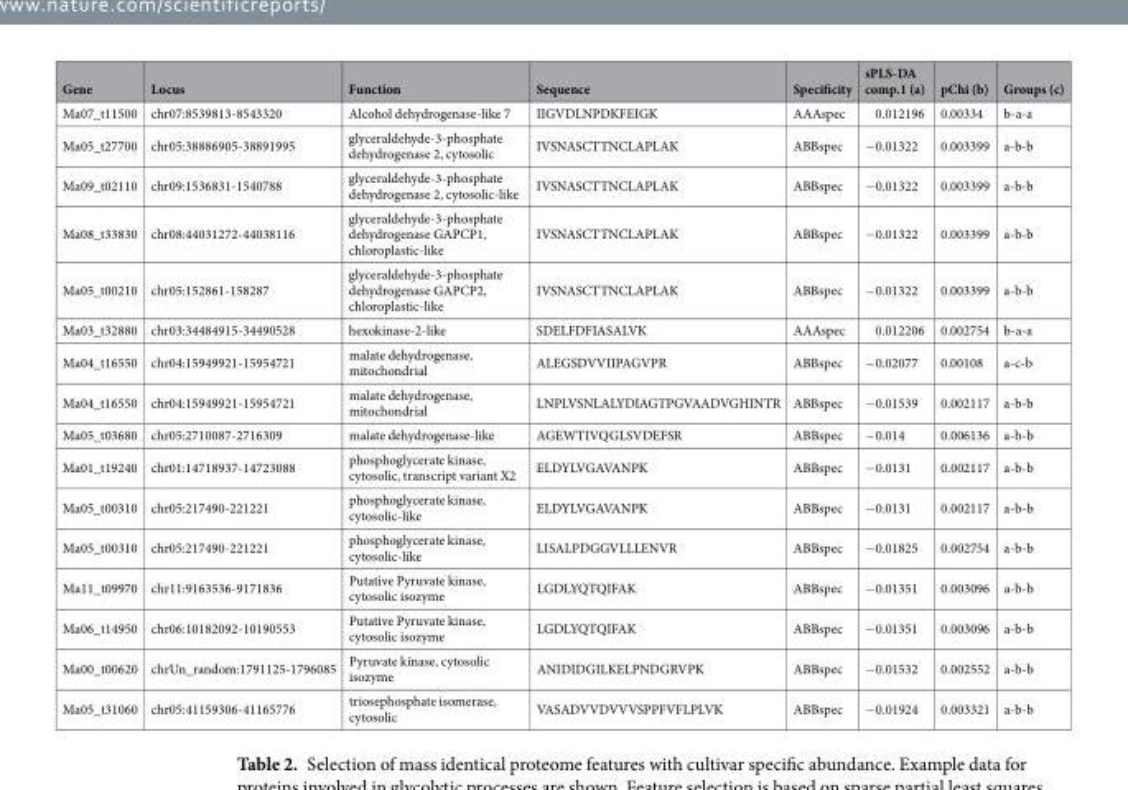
<table><thead><tr><td>Gene</td><td>Locus</td><td>Function</td><td>Sequence</td><td>Specificity</td><td>sPLS-DA comp.1 (a)</td><td>pChi (b)</td><td>Groups (c)</td></tr></thead><tbody><tr><td>Ma07_t11500</td><td>chr07:8539813-8543320</td><td>Alcohol dehydrogenase-like 7</td><td>IIGVDLNPDKFEIGK</td><td>AAAspec</td><td>0.012196</td><td>0.00334</td><td>b-a-a</td></tr><tr><td>Ma05_t27700</td><td>chr05:38886905-38891995</td><td>glyceraldehyde-3-phosphate dehydrogenase 2, cytosolic</td><td>IVSNASCTTNCLAPLAK</td><td>ABBspec</td><td>−0.01322</td><td>0.003399</td><td>a-b-b</td></tr><tr><td>Ma09_t02110</td><td>chr09:1536831-1540788</td><td>glyceraldehyde-3-phosphate dehydrogenase 2, cytosolic-like</td><td>IVSNASCTTNCLAPLAK</td><td>ABBspec</td><td>−0.01322</td><td>0.003399</td><td>a-b-b</td></tr><tr><td>Ma08_t33830</td><td>chr08:44031272-44038116</td><td>glyceraldehyde-3-phosphate dehydrogenase GAPCP1, chloroplastic-like</td><td>IVSNASCTTNCLAPLAK</td><td>ABBspec</td><td>−0.01322</td><td>0.003399</td><td>a-b-b</td></tr><tr><td>Ma05_t00210</td><td>chr05:152861-158287</td><td>glyceraldehyde-3-phosphate dehydrogenase GAPCP2, chloroplastic-like</td><td>IVSNASCTTNCLAPLAK</td><td>ABBspec</td><td>−0.01322</td><td>0.003399</td><td>a-b-b</td></tr><tr><td>Ma03_t32880</td><td>chr03:34484915-34490528</td><td>hexokinase-2-like</td><td>SDELFDFIASALVK</td><td>AAAspec</td><td>0.012206</td><td>0.002754</td><td>b-a-a</td></tr><tr><td>Ma04_t16550</td><td>chr04:15949921-15954721</td><td>malate dehydrogenase, mitochondrial</td><td>ALEGSDVVIIPAGVPR</td><td>ABBspec</td><td>−0.02077</td><td>0.00108</td><td>a-c-b</td></tr><tr><td>Ma04_t16550</td><td>chr04:15949921-15954721</td><td>malate dehydrogenase, mitochondrial</td><td>LNPLVSNLALYDIAGTPGVAADVGHINTR</td><td>ABBspec</td><td>−0.01539</td><td>0.002117</td><td>a-b-b</td></tr><tr><td>Ma05_t03680</td><td>chr05:2710087-2716309</td><td>malate dehydrogenase-like</td><td>AGEWTIVQGLSVDEFSR</td><td>ABBspec</td><td>−0.014</td><td>0.006136</td><td>a-b-b</td></tr><tr><td>Ma01_t19240</td><td>chr01:14718937-14723088</td><td>phosphoglycerate kinase, cytosolic, transcript variant X2</td><td>ELDYLVGAVANPK</td><td>ABBspec</td><td>−0.0131</td><td>0.002117</td><td>a-b-b</td></tr><tr><td>Ma05_t00310</td><td>chr05:217490-221221</td><td>phosphoglycerate kinase, cytosolic-like</td><td>ELDYLVGAVANPK</td><td>ABBspec</td><td>−0.0131</td><td>0.002117</td><td>a-b-b</td></tr><tr><td>Ma05_t00310</td><td>chr05:217490-221221</td><td>phosphoglycerate kinase, cytosolic-like</td><td>LISALPDGGVLLLENVR</td><td>ABBspec</td><td>−0.01825</td><td>0.002754</td><td>a-b-b</td></tr><tr><td>Ma11_t09970</td><td>chr11:9163536-9171836</td><td>Putative Pyruvate kinase, cytosolic isozyme</td><td>LGDLYQTQIFAK</td><td>ABBspec</td><td>−0.01351</td><td>0.003096</td><td>a-b-b</td></tr><tr><td>Ma06_t14950</td><td>chr06:10182092-10190553</td><td>Putative Pyruvate kinase, cytosolic isozyme</td><td>LGDLYQTQIFAK</td><td>ABBspec</td><td>−0.01351</td><td>0.003096</td><td>a-b-b</td></tr><tr><td>Ma00_t00620</td><td>chrUn_random:1791125-1796085</td><td>Pyruvate kinase, cytosolic isozyme</td><td>ANIDIDGILKELPNDGRVPK</td><td>ABBspec</td><td>−0.01532</td><td>0.002552</td><td>a-b-b</td></tr><tr><td>Ma05_t31060</td><td>chr05:41159306-41165776</td><td>triosephosphate isomerase, cytosolic</td><td>VASADVVDVVVSPPFVFLPLVK</td><td>ABBspec</td><td>−0.01924</td><td>0.003321</td><td>a-b-b</td></tr></tbody></table>